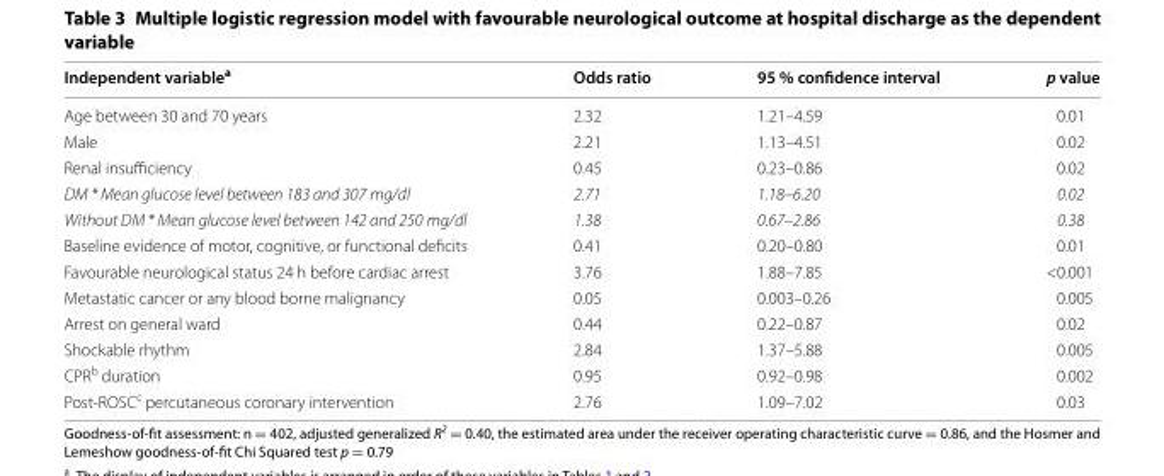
<table><thead><tr><td>Independent variable<sup>a</sup></td><td>Odds ratio</td><td>95 % confidence interval</td><td>p value</td></tr></thead><tbody><tr><td>Age between 30 and 70 years</td><td>2.32</td><td>1.21–4.59</td><td>0.01</td></tr><tr><td>Male</td><td>2.21</td><td>1.13–4.51</td><td>0.02</td></tr><tr><td>Renal insufficiency</td><td>0.45</td><td>0.23–0.86</td><td>0.02</td></tr><tr><td>DM * Mean glucose level between 183 and 307 mg/dl</td><td>2.71</td><td>1.18–6.20</td><td>0.02</td></tr><tr><td>Without DM * Mean glucose level between 142 and 250 mg/dl</td><td>1.38</td><td>0.67–2.86</td><td>0.38</td></tr><tr><td>Baseline evidence of motor, cognitive, or functional deficits</td><td>0.41</td><td>0.20–0.80</td><td>0.01</td></tr><tr><td>Favourable neurological status 24 h before cardiac arrest</td><td>3.76</td><td>1.88–7.85</td><td>&lt;0.001</td></tr><tr><td>Metastatic cancer or any blood borne malignancy</td><td>0.05</td><td>0.003–0.26</td><td>0.005</td></tr><tr><td>Arrest on general ward</td><td>0.44</td><td>0.22–0.87</td><td>0.02</td></tr><tr><td>Shockable rhythm</td><td>2.84</td><td>1.37–5.88</td><td>0.005</td></tr><tr><td>CPR<sup>b</sup> duration</td><td>0.95</td><td>0.92–0.98</td><td>0.002</td></tr><tr><td>Post‑ROSC<sup>c</sup> percutaneous coronary intervention</td><td>2.76</td><td>1.09–7.02</td><td>0.03</td></tr></tbody></table>